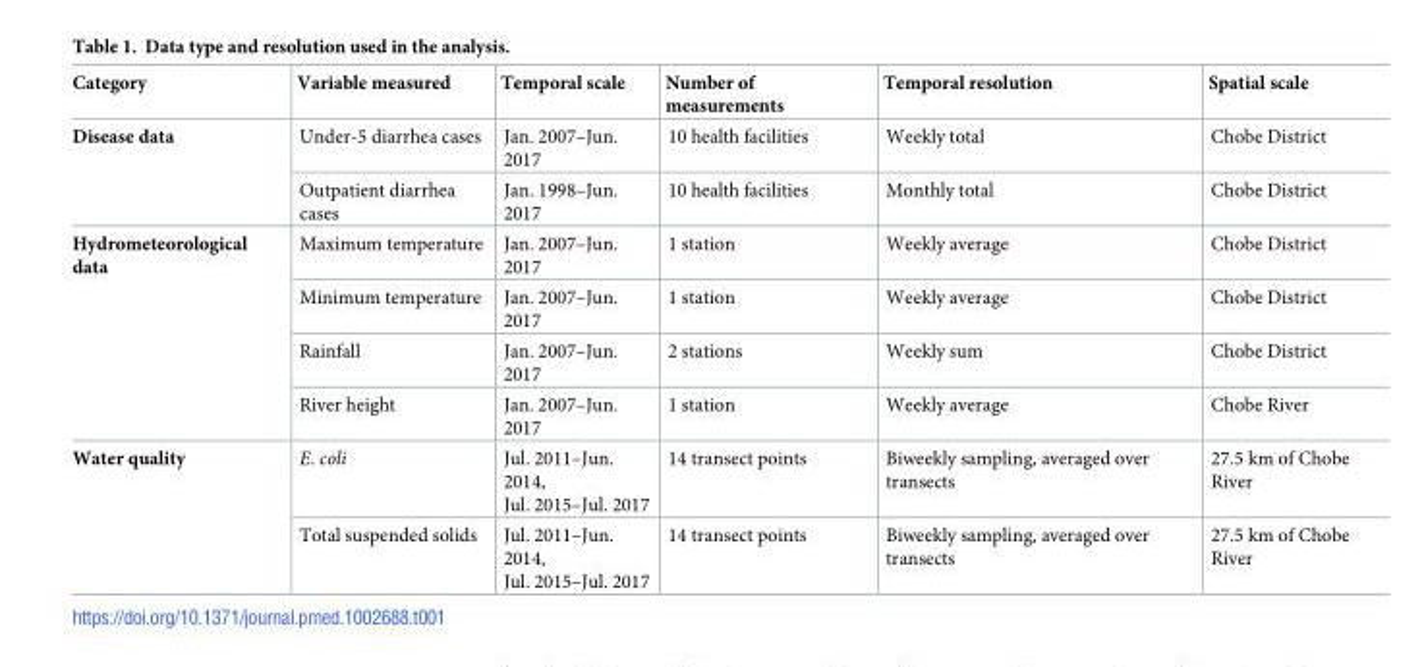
<table><thead><tr><td>Category</td><td>Variable measured</td><td>Temporal scale</td><td>Number of measurements</td><td>Temporal resolution</td><td>Spatial scale</td></tr></thead><tbody><tr><td rowspan="2">Disease data</td><td>Under-5 diarrhea cases</td><td>Jan. 2007–Jun. 2017</td><td>10 health facilities</td><td>Weekly total</td><td>Chobe District</td></tr><tr><td>Outpatient diarrhea cases</td><td>Jan. 1998–Jun. 2017</td><td>10 health facilities</td><td>Monthly total</td><td>Chobe District</td></tr><tr><td rowspan="4">Hydrometeorological data</td><td>Maximum temperature</td><td>Jan. 2007–Jun. 2017</td><td>1 station</td><td>Weekly average</td><td>Chobe District</td></tr><tr><td>Minimum temperature</td><td>Jan. 2007–Jun. 2017</td><td>1 station</td><td>Weekly average</td><td>Chobe District</td></tr><tr><td>Rainfall</td><td>Jan. 2007–Jun. 2017</td><td>2 stations</td><td>Weekly sum</td><td>Chobe District</td></tr><tr><td>River height</td><td>Jan. 2007–Jun. 2017</td><td>1 station</td><td>Weekly average</td><td>Chobe River</td></tr><tr><td rowspan="2">Water quality</td><td>E. coli</td><td>Jul. 2011–Jun. 2014, Jul. 2015–Jul. 2017</td><td>14 transect points</td><td>Biweekly sampling, averaged over transects</td><td>27.5 km of Chobe River</td></tr><tr><td>Total suspended solids</td><td>Jul. 2011–Jun. 2014, Jul. 2015–Jul. 2017</td><td>14 transect points</td><td>Biweekly sampling, averaged over transects</td><td>27.5 km of Chobe River</td></tr></tbody></table>